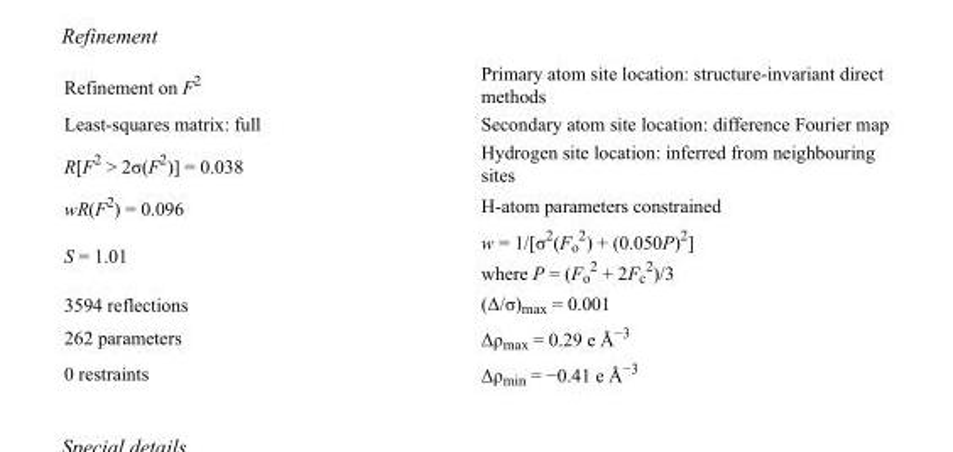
<table><tbody><tr><td>Refinement on F<sup>2</sup></td><td>Primary atom site location: structure-invariant direct methods</td></tr><tr><td>Least-squares matrix: full</td><td>Secondary atom site location: difference Fourier map</td></tr><tr><td>R[F<sup>2</sup> &gt; 2σ(F<sup>2</sup>)] = 0.038</td><td>Hydrogen site location: inferred from neighbouring sites</td></tr><tr><td>wR(F<sup>2</sup>) = 0.096</td><td>H-atom parameters constrained</td></tr><tr><td>S = 1.01</td><td>w = 1/[σ<sup>2</sup>(F<sub>o</sub> <sup>2</sup>) + (0.050P)<sup>2</sup>] where P = (F<sub>o</sub> <sup>2</sup> + 2F<sub>c</sub> <sup>2</sup>)/3</td></tr><tr><td>3594 reflections</td><td>(Δ/σ)<sub>max</sub> = 0.001</td></tr><tr><td>262 parameters</td><td>Δρ<sub>max</sub> = 0.29 e Å<sup>−3</sup></td></tr><tr><td>0 restraints</td><td>Δρ<sub>min</sub> = −0.41 e Å<sup>−3</sup></td></tr></tbody></table>